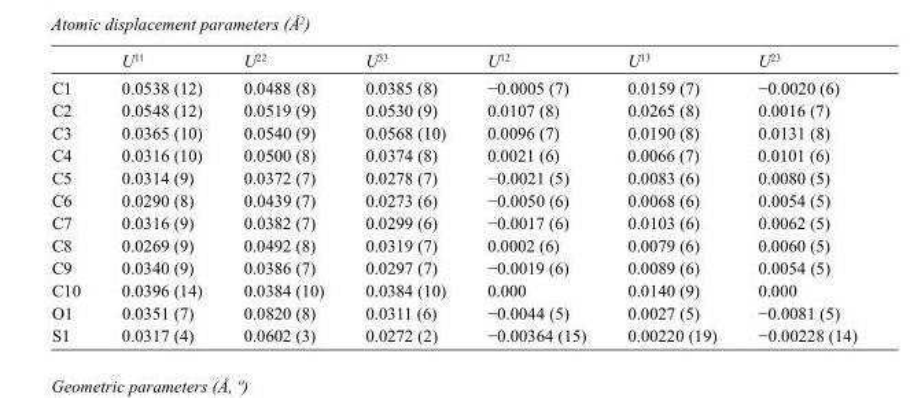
<table><thead><tr><td></td><td>U<sup>11</sup></td><td>U<sup>22</sup></td><td>U<sup>33</sup></td><td>U<sup>12</sup></td><td>U<sup>13</sup></td><td>U<sup>23</sup></td></tr></thead><tbody><tr><td>C1</td><td>0.0538 (12)</td><td>0.0488 (8)</td><td>0.0385 (8)</td><td>−0.0005 (7)</td><td>0.0159 (7)</td><td>−0.0020 (6)</td></tr><tr><td>C2</td><td>0.0548 (12)</td><td>0.0519 (9)</td><td>0.0530 (9)</td><td>0.0107 (8)</td><td>0.0265 (8)</td><td>0.0016 (7)</td></tr><tr><td>C3</td><td>0.0365 (10)</td><td>0.0540 (9)</td><td>0.0568 (10)</td><td>0.0096 (7)</td><td>0.0190 (8)</td><td>0.0131 (8)</td></tr><tr><td>C4</td><td>0.0316 (10)</td><td>0.0500 (8)</td><td>0.0374 (8)</td><td>0.0021 (6)</td><td>0.0066 (7)</td><td>0.0101 (6)</td></tr><tr><td>C5</td><td>0.0314 (9)</td><td>0.0372 (7)</td><td>0.0278 (7)</td><td>−0.0021 (5)</td><td>0.0083 (6)</td><td>0.0080 (5)</td></tr><tr><td>C6</td><td>0.0290 (8)</td><td>0.0439 (7)</td><td>0.0273 (6)</td><td>−0.0050 (6)</td><td>0.0068 (6)</td><td>0.0054 (5)</td></tr><tr><td>C7</td><td>0.0316 (9)</td><td>0.0382 (7)</td><td>0.0299 (6)</td><td>−0.0017 (6)</td><td>0.0103 (6)</td><td>0.0062 (5)</td></tr><tr><td>C8</td><td>0.0269 (9)</td><td>0.0492 (8)</td><td>0.0319 (7)</td><td>0.0002 (6)</td><td>0.0079 (6)</td><td>0.0060 (5)</td></tr><tr><td>C9</td><td>0.0340 (9)</td><td>0.0386 (7)</td><td>0.0297 (7)</td><td>−0.0019 (6)</td><td>0.0089 (6)</td><td>0.0054 (5)</td></tr><tr><td>C10</td><td>0.0396 (14)</td><td>0.0384 (10)</td><td>0.0384 (10)</td><td>0.000</td><td>0.0140 (9)</td><td>0.000</td></tr><tr><td>O1</td><td>0.0351 (7)</td><td>0.0820 (8)</td><td>0.0311 (6)</td><td>−0.0044 (5)</td><td>0.0027 (5)</td><td>−0.0081 (5)</td></tr><tr><td>S1</td><td>0.0317 (4)</td><td>0.0602 (3)</td><td>0.0272 (2)</td><td>−0.00364 (15)</td><td>0.00220 (19)</td><td>−0.00228 (14)</td></tr></tbody></table>